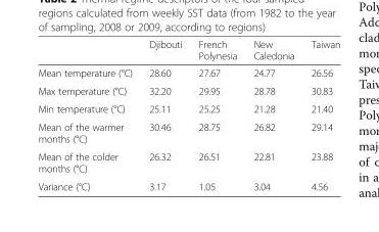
<table><thead><tr><td></td><td>Djibouti</td><td>French Polynesia</td><td>New Caledonia</td><td>Taiwan</td></tr></thead><tbody><tr><td>Mean temperature (°C)</td><td>28.60</td><td>27.67</td><td>24.77</td><td>26.56</td></tr><tr><td>Max temperature (°C)</td><td>32.20</td><td>29.95</td><td>28.78</td><td>30.83</td></tr><tr><td>Min temperature (°C)</td><td>25.11</td><td>25.25</td><td>21.28</td><td>21.40</td></tr><tr><td>Mean of the warmer months (°C)</td><td>30.46</td><td>28.75</td><td>26.82</td><td>29.14</td></tr><tr><td>Mean of the colder months (°C)</td><td>26.32</td><td>26.51</td><td>22.81</td><td>23.88</td></tr><tr><td>Variance (°C)</td><td>3.17</td><td>1.05</td><td>3.04</td><td>4.56</td></tr></tbody></table>